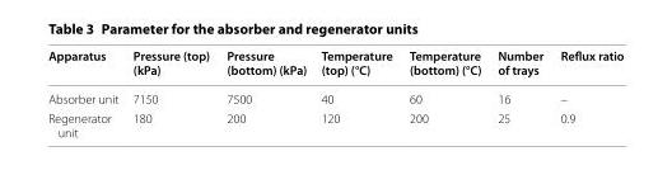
<table><thead><tr><td>Apparatus</td><td>Pressure (top) (kPa)</td><td>Pressure (bottom) (kPa)</td><td>Temperature (top) (°C)</td><td>Temperature (bottom) (°C)</td><td>Number of trays</td><td>Reflux ratio</td></tr></thead><tbody><tr><td>Absorber unit</td><td>7150</td><td>7500</td><td>40</td><td>60</td><td>16</td><td>–</td></tr><tr><td>Regenerator unit</td><td>180</td><td>200</td><td>120</td><td>200</td><td>25</td><td>0.9</td></tr></tbody></table>